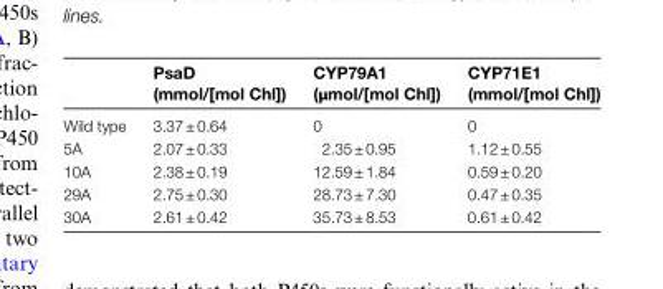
<table><thead><tr><td></td><td>PsaD (mmol/[mol Chl])</td><td>CYP79A1 (µmol/[mol Chl])</td><td>CYP71E1 (mmol/[mol Chl])</td></tr></thead><tbody><tr><td>Wild type</td><td>3.37 ± 0.64</td><td>0</td><td>0</td></tr><tr><td>5A</td><td>2.07 ± 0.33</td><td>2.35 ± 0.95</td><td>1.12 ± 0.55</td></tr><tr><td>10A</td><td>2.38 ± 0.19</td><td>12.59 ± 1.84</td><td>0.59 ± 0.20</td></tr><tr><td>29A</td><td>2.75 ± 0.30</td><td>28.73 ± 7.30</td><td>0.47 ± 0.35</td></tr><tr><td>30A</td><td>2.61 ± 0.42</td><td>35.73 ± 8.53</td><td>0.61 ± 0.42</td></tr></tbody></table>